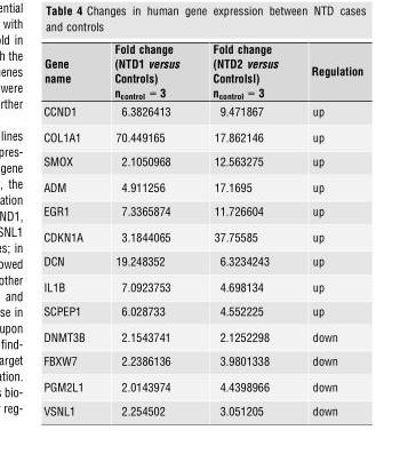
<table><thead><tr><td>Gene name</td><td>Fold change (NTD1 versus Controls) n<sub>control</sub> = 3</td><td>Fold change (NTD2 versus Controlsl) n<sub>control</sub> = 3</td><td>Regulation</td></tr></thead><tbody><tr><td>CCND1</td><td>6.3826413</td><td>9.471867</td><td>up</td></tr><tr><td>COL1A1</td><td>70.449165</td><td>17.862146</td><td>up</td></tr><tr><td>SMOX</td><td>2.1050968</td><td>12.563275</td><td>up</td></tr><tr><td>ADM</td><td>4.911256</td><td>17.1695</td><td>up</td></tr><tr><td>EGR1</td><td>7.3365874</td><td>11.726604</td><td>up</td></tr><tr><td>CDKN1A</td><td>3.1844065</td><td>37.75585</td><td>up</td></tr><tr><td>DCN</td><td>19.248352</td><td>6.3234243</td><td>up</td></tr><tr><td>IL1B</td><td>7.0923753</td><td>4.698134</td><td>up</td></tr><tr><td>SCPEP1</td><td>6.028733</td><td>4.552225</td><td>up</td></tr><tr><td>DNMT3B</td><td>2.1543741</td><td>2.1252298</td><td>down</td></tr><tr><td>FBXW7</td><td>2.2386136</td><td>3.9801338</td><td>down</td></tr><tr><td>PGM2L1</td><td>2.0143974</td><td>4.4398966</td><td>down</td></tr><tr><td>VSNL1</td><td>2.254502</td><td>3.051205</td><td>down</td></tr></tbody></table>